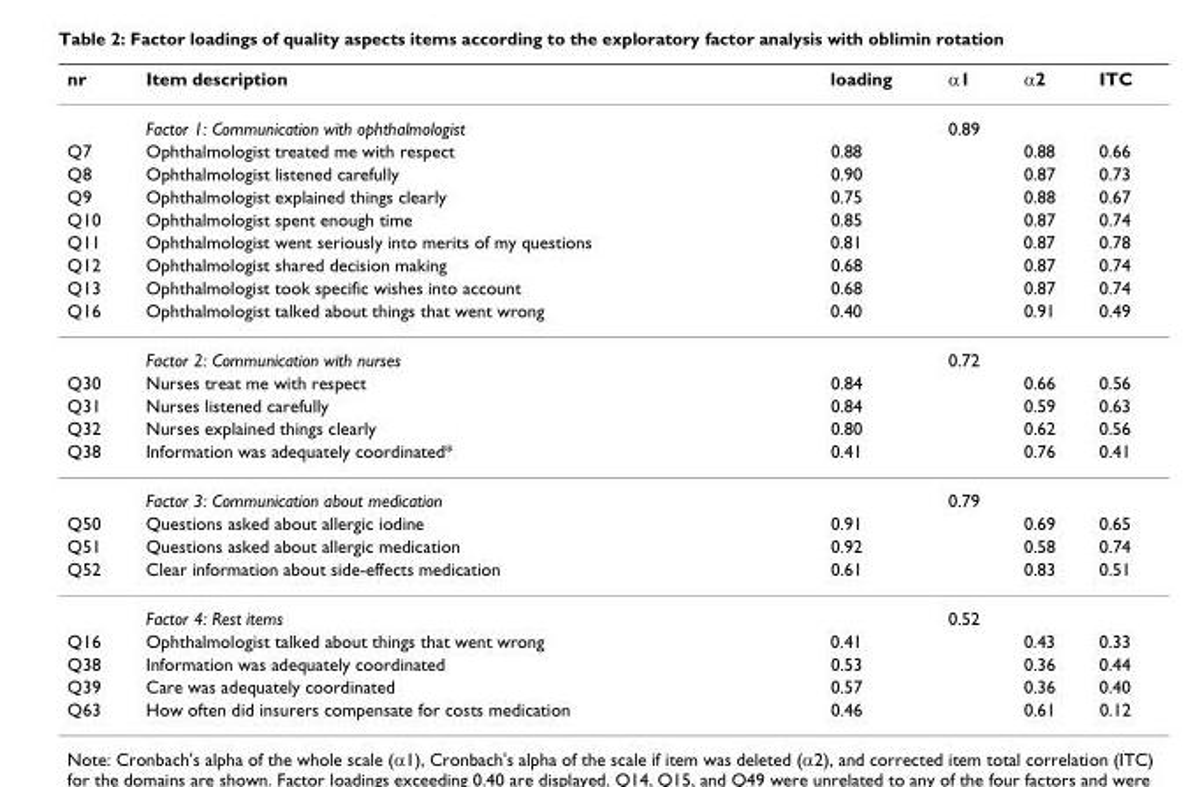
<table><thead><tr><td>nr</td><td>Item description</td><td>loading</td><td>α1</td><td>α2</td><td>ITC</td></tr></thead><tbody><tr><td></td><td>Factor 1: Communication with ophthalmologist</td><td></td><td>0.89</td><td></td><td></td></tr><tr><td>Q7</td><td>Ophthalmologist treated me with respect</td><td>0.88</td><td></td><td>0.88</td><td>0.66</td></tr><tr><td>Q8</td><td>Ophthalmologist listened carefully</td><td>0.90</td><td></td><td>0.87</td><td>0.73</td></tr><tr><td>Q9</td><td>Ophthalmologist explained things clearly</td><td>0.75</td><td></td><td>0.88</td><td>0.67</td></tr><tr><td>Q10</td><td>Ophthalmologist spent enough time</td><td>0.85</td><td></td><td>0.87</td><td>0.74</td></tr><tr><td>Q11</td><td>Ophthalmologist went seriously into merits of my questions</td><td>0.81</td><td></td><td>0.87</td><td>0.78</td></tr><tr><td>Q12</td><td>Ophthalmologist shared decision making</td><td>0.68</td><td></td><td>0.87</td><td>0.74</td></tr><tr><td>Q13</td><td>Ophthalmologist took specific wishes into account</td><td>0.68</td><td></td><td>0.87</td><td>0.74</td></tr><tr><td rowspan="2">Q16</td><td>Ophthalmologist talked about things that went wrong</td><td>0.40</td><td></td><td>0.91</td><td>0.49</td></tr><tr><td>Factor 2: Communication with nurses</td><td></td><td>0.72</td><td></td><td></td></tr><tr><td>Q30</td><td>Nurses treat me with respect</td><td>0.84</td><td></td><td>0.66</td><td>0.56</td></tr><tr><td>Q31</td><td>Nurses listened carefully</td><td>0.84</td><td></td><td>0.59</td><td>0.63</td></tr><tr><td>Q32</td><td>Nurses explained things clearly</td><td>0.80</td><td></td><td>0.62</td><td>0.56</td></tr><tr><td rowspan="2">Q38</td><td>Information was adequately coordinated*</td><td>0.41</td><td></td><td>0.76</td><td>0.41</td></tr><tr><td>Factor 3: Communication about medication</td><td></td><td>0.79</td><td></td><td></td></tr><tr><td>Q50</td><td>Questions asked about allergic iodine</td><td>0.91</td><td></td><td>0.69</td><td>0.65</td></tr><tr><td>Q51</td><td>Questions asked about allergic medication</td><td>0.92</td><td></td><td>0.58</td><td>0.74</td></tr><tr><td rowspan="2">Q52</td><td>Clear information about side-effects medication</td><td>0.61</td><td></td><td>0.83</td><td>0.51</td></tr><tr><td>Factor 4: Rest items</td><td></td><td>0.52</td><td></td><td></td></tr><tr><td>Q16</td><td>Ophthalmologist talked about things that went wrong</td><td>0.41</td><td></td><td>0.43</td><td>0.33</td></tr><tr><td>Q38</td><td>Information was adequately coordinated</td><td>0.53</td><td></td><td>0.36</td><td>0.44</td></tr><tr><td>Q39</td><td>Care was adequately coordinated</td><td>0.57</td><td></td><td>0.36</td><td>0.40</td></tr><tr><td>Q63</td><td>How often did insurers compensate for costs medication</td><td>0.46</td><td></td><td>0.61</td><td>0.12</td></tr></tbody></table>